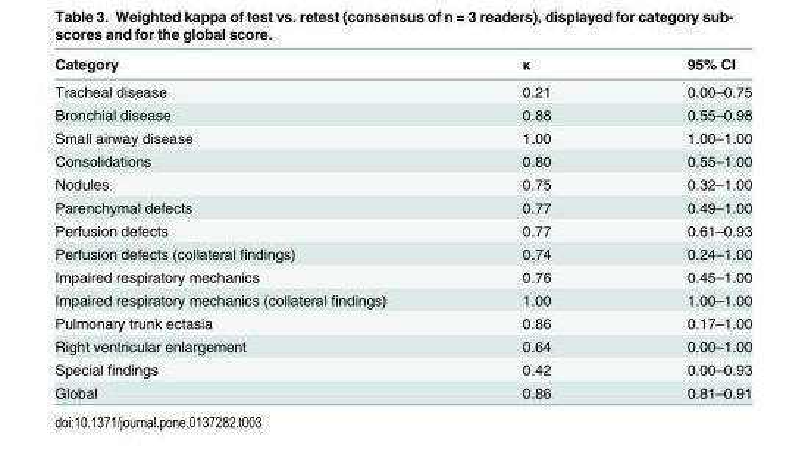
<table><thead><tr><td>Category</td><td>κ</td><td>95% CI</td></tr></thead><tbody><tr><td>Tracheal disease</td><td>0.21</td><td>0.00–0.75</td></tr><tr><td>Bronchial disease</td><td>0.88</td><td>0.55–0.98</td></tr><tr><td>Small airway disease</td><td>1.00</td><td>1.00–1.00</td></tr><tr><td>Consolidations</td><td>0.80</td><td>0.55–1.00</td></tr><tr><td>Nodules</td><td>0.75</td><td>0.32–1.00</td></tr><tr><td>Parenchymal defects</td><td>0.77</td><td>0.49–1.00</td></tr><tr><td>Perfusion defects</td><td>0.77</td><td>0.61–0.93</td></tr><tr><td>Perfusion defects (collateral findings)</td><td>0.74</td><td>0.24–1.00</td></tr><tr><td>Impaired respiratory mechanics</td><td>0.76</td><td>0.45–1.00</td></tr><tr><td>Impaired respiratory mechanics (collateral findings)</td><td>1.00</td><td>1.00–1.00</td></tr><tr><td>Pulmonary trunk ectasia</td><td>0.86</td><td>0.17–1.00</td></tr><tr><td>Right ventricular enlargement</td><td>0.64</td><td>0.00–1.00</td></tr><tr><td>Special findings</td><td>0.42</td><td>0.00–0.93</td></tr><tr><td>Global</td><td>0.86</td><td>0.81–0.91</td></tr></tbody></table>